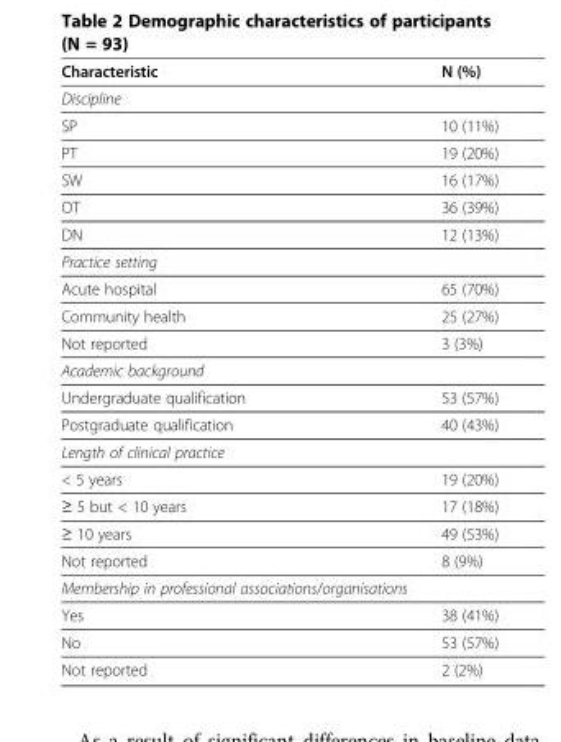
<table><thead><tr><td>Characteristic</td><td>N (%)</td></tr></thead><tbody><tr><td colspan="2">Discipline</td></tr><tr><td>SP</td><td>10 (11%)</td></tr><tr><td>PT</td><td>19 (20%)</td></tr><tr><td>SW</td><td>16 (17%)</td></tr><tr><td>OT</td><td>36 (39%)</td></tr><tr><td>DN</td><td>12 (13%)</td></tr><tr><td colspan="2">Practice setting</td></tr><tr><td>Acute hospital</td><td>65 (70%)</td></tr><tr><td>Community health</td><td>25 (27%)</td></tr><tr><td>Not reported</td><td>3 (3%)</td></tr><tr><td colspan="2">Academic background</td></tr><tr><td>Undergraduate qualification</td><td>53 (57%)</td></tr><tr><td>Postgraduate qualification</td><td>40 (43%)</td></tr><tr><td colspan="2">Length of clinical practice</td></tr><tr><td>&lt; 5 years</td><td>19 (20%)</td></tr><tr><td>≥ 5 but &lt; 10 years</td><td>17 (18%)</td></tr><tr><td>≥ 10 years</td><td>49 (53%)</td></tr><tr><td>Not reported</td><td>8 (9%)</td></tr><tr><td colspan="2">Membership in professional associations/organisations</td></tr><tr><td>Yes</td><td>38 (41%)</td></tr><tr><td>No</td><td>53 (57%)</td></tr><tr><td>Not reported</td><td>2 (2%)</td></tr></tbody></table>